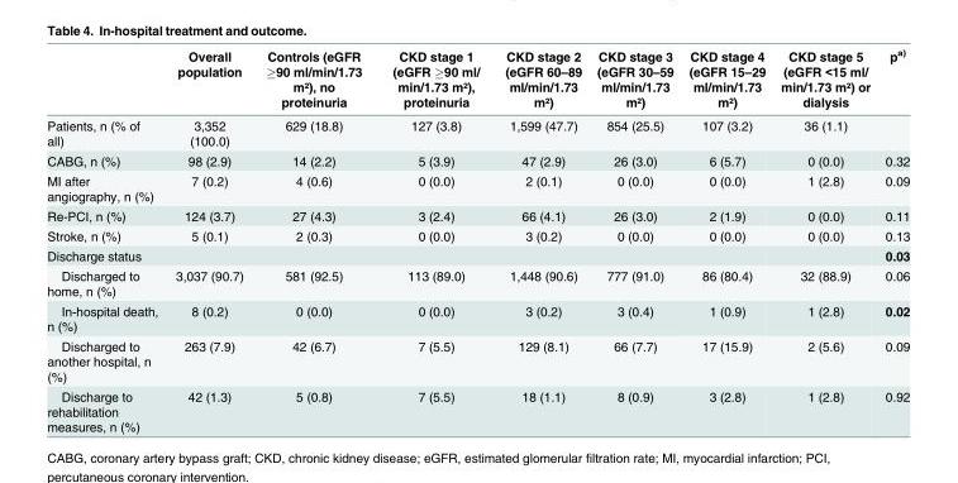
<table><thead><tr><td></td><td>Overall population</td><td>Controls (eGFR ≥90 ml/min/1.73 m²), no proteinuria</td><td>CKD stage 1 (eGFR ≥90 ml/ min/1.73 m²), proteinuria</td><td>CKD stage 2 (eGFR 60–89 ml/min/1.73 m²)</td><td>CKD stage 3 (eGFR 30–59 ml/min/1.73 m²)</td><td>CKD stage 4 (eGFR 15–29 ml/min/1.73 m²)</td><td>CKD stage 5 (eGFR &lt;15 ml/ min/1.73 m²) or dialysis</td><td>p<sup>a)</sup></td></tr></thead><tbody><tr><td>Patients, n (% of all)</td><td>3,352 (100.0)</td><td>629 (18.8)</td><td>127 (3.8)</td><td>1,599 (47.7)</td><td>854 (25.5)</td><td>107 (3.2)</td><td>36 (1.1)</td><td></td></tr><tr><td>CABG, n (%)</td><td>98 (2.9)</td><td>14 (2.2)</td><td>5 (3.9)</td><td>47 (2.9)</td><td>26 (3.0)</td><td>6 (5.7)</td><td>0 (0.0)</td><td>0.32</td></tr><tr><td>MI after angiography, n (%)</td><td>7 (0.2)</td><td>4 (0.6)</td><td>0 (0.0)</td><td>2 (0.1)</td><td>0 (0.0)</td><td>0 (0.0)</td><td>1 (2.8)</td><td>0.09</td></tr><tr><td>Re-PCI, n (%)</td><td>124 (3.7)</td><td>27 (4.3)</td><td>3 (2.4)</td><td>66 (4.1)</td><td>26 (3.0)</td><td>2 (1.9)</td><td>0 (0.0)</td><td>0.11</td></tr><tr><td>Stroke, n (%)</td><td>5 (0.1)</td><td>2 (0.3)</td><td>0 (0.0)</td><td>3 (0.2)</td><td>0 (0.0)</td><td>0 (0.0)</td><td>0 (0.0)</td><td>0.13</td></tr><tr><td>Discharge status</td><td></td><td></td><td></td><td></td><td></td><td></td><td></td><td>0.03</td></tr><tr><td>Discharged to home, n (%)</td><td>3,037 (90.7)</td><td>581 (92.5)</td><td>113 (89.0)</td><td>1,448 (90.6)</td><td>777 (91.0)</td><td>86 (80.4)</td><td>32 (88.9)</td><td>0.06</td></tr><tr><td>In-hospital death, n (%)</td><td>8 (0.2)</td><td>0 (0.0)</td><td>0 (0.0)</td><td>3 (0.2)</td><td>3 (0.4)</td><td>1 (0.9)</td><td>1 (2.8)</td><td>0.02</td></tr><tr><td>Discharged to another hospital, n (%)</td><td>263 (7.9)</td><td>42 (6.7)</td><td>7 (5.5)</td><td>129 (8.1)</td><td>66 (7.7)</td><td>17 (15.9)</td><td>2 (5.6)</td><td>0.09</td></tr><tr><td>Discharge to rehabilitation measures, n (%)</td><td>42 (1.3)</td><td>5 (0.8)</td><td>7 (5.5)</td><td>18 (1.1)</td><td>8 (0.9)</td><td>3 (2.8)</td><td>1 (2.8)</td><td>0.92</td></tr></tbody></table>